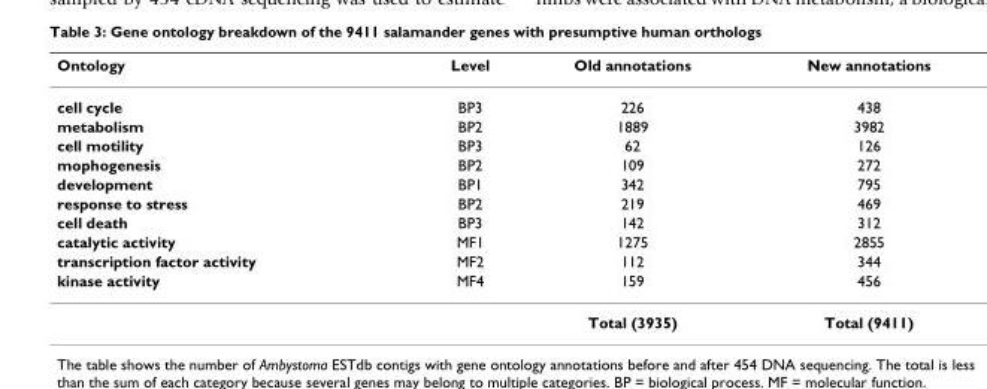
<table><thead><tr><td>Ontology</td><td>Level</td><td>Old annotations</td><td>New annotations</td></tr></thead><tbody><tr><td>cell cycle</td><td>BP3</td><td>226</td><td>438</td></tr><tr><td>metabolism</td><td>BP2</td><td>1889</td><td>3982</td></tr><tr><td>cell motility</td><td>BP3</td><td>62</td><td>126</td></tr><tr><td>mophogenesis</td><td>BP2</td><td>109</td><td>272</td></tr><tr><td>development</td><td>BP1</td><td>342</td><td>795</td></tr><tr><td>response to stress</td><td>BP2</td><td>219</td><td>469</td></tr><tr><td>cell death</td><td>BP3</td><td>142</td><td>312</td></tr><tr><td>catalytic activity</td><td>MF1</td><td>1275</td><td>2855</td></tr><tr><td>transcription factor activity</td><td>MF2</td><td>112</td><td>344</td></tr><tr><td rowspan="2">kinase activity</td><td>MF4</td><td>159</td><td>456</td></tr><tr><td></td><td>Total (3935)</td><td>Total (9411)</td></tr></tbody></table>